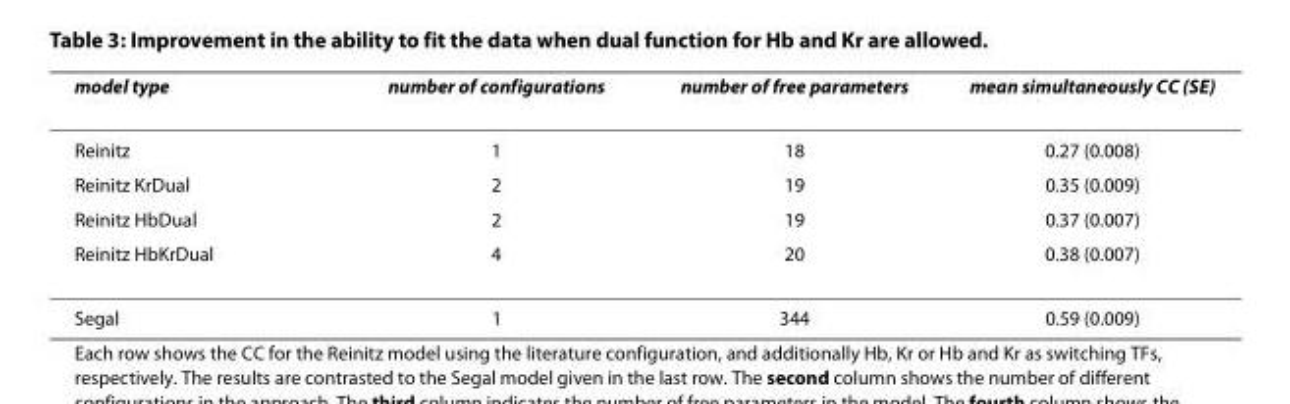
<table><thead><tr><td>model type</td><td>number of configurations</td><td>number of free parameters</td><td>mean simultaneously CC (SE)</td></tr></thead><tbody><tr><td>Reinitz</td><td>1</td><td>18</td><td>0.27 (0.008)</td></tr><tr><td>Reinitz KrDual</td><td>2</td><td>19</td><td>0.35 (0.009)</td></tr><tr><td>Reinitz HbDual</td><td>2</td><td>19</td><td>0.37 (0.007)</td></tr><tr><td>Reinitz HbKrDual</td><td>4</td><td>20</td><td>0.38 (0.007)</td></tr><tr><td>Segal</td><td>1</td><td>344</td><td>0.59 (0.009)</td></tr></tbody></table>